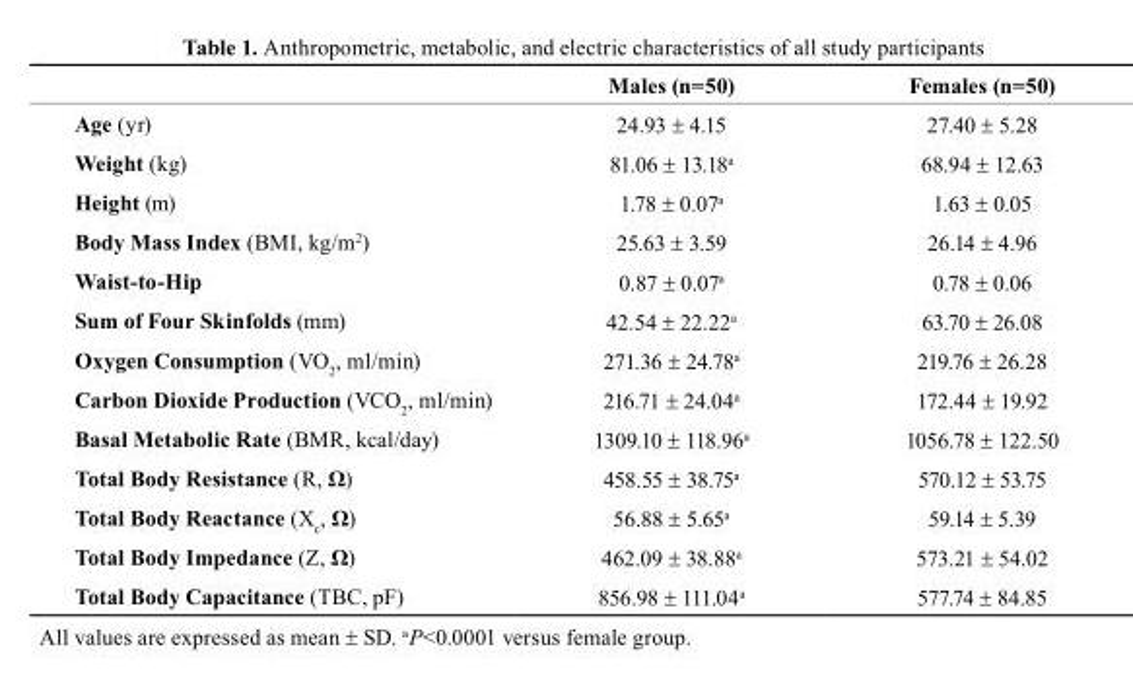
<table><thead><tr><td></td><td>Males (n=50)</td><td>Females (n=50)</td></tr></thead><tbody><tr><td>Age (yr)</td><td>24.93 ± 4.15</td><td>27.40 ± 5.28</td></tr><tr><td>Weight (kg)</td><td>81.06 ± 13.18<sup>a</sup></td><td>68.94 ± 12.63</td></tr><tr><td>Height (m)</td><td>1.78 ± 0.07<sup>a</sup></td><td>1.63 ± 0.05</td></tr><tr><td>body Mass Index (BMI, kg/m<sup>2</sup>)</td><td>25.63 ± 3.59</td><td>26.14 ± 4.96</td></tr><tr><td>Waist-to-Hip</td><td>0.87 ± 0.07<sup>a</sup></td><td>0.78 ± 0.06</td></tr><tr><td>Sum of Four Skinfolds (mm)</td><td>42.54 ± 22.22<sup>a</sup></td><td>63.70 ± 26.08</td></tr><tr><td>Oxygen consumption (VO<sub>2</sub>, ml/min)</td><td>271.36 ± 24.78<sup>a</sup></td><td>219.76 ± 26.28</td></tr><tr><td>carbon Dioxide Production (VCO<sub>2</sub>, ml/min)</td><td>216.71 ± 24.04<sup>a</sup></td><td>172.44 ± 19.92</td></tr><tr><td>basal Metabolic rate (BMR, kcal/day)</td><td>1309.10 ± 118.96<sup>a</sup></td><td>1056.78 ± 122.50</td></tr><tr><td>total body resistance (R, Ω)</td><td>458.55 ± 38.75<sup>a</sup></td><td>570.12 ± 53.75</td></tr><tr><td>total body reactance (X<sub>c</sub>, Ω)</td><td>56.88 ± 5.65<sup>a</sup></td><td>59.14 ± 5.39</td></tr><tr><td>total body Impedance (Z, Ω)</td><td>462.09 ± 38.88<sup>a</sup></td><td>573.21 ± 54.02</td></tr><tr><td>total body capacitance (TBC, pF)</td><td>856.98 ± 111.04<sup>a</sup></td><td>577.74 ± 84.85</td></tr></tbody></table>